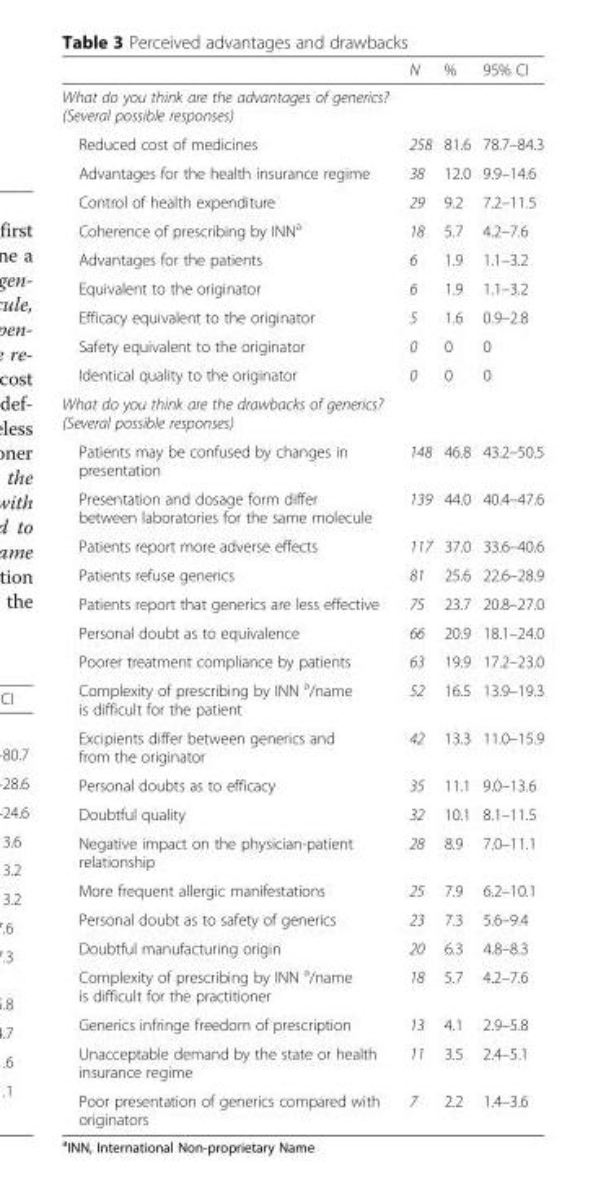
<table><thead><tr><td></td><td>N</td><td>%</td><td>95% CI</td></tr></thead><tbody><tr><td colspan="4">What do you think are the advantages of generics? (Several possible responses)</td></tr><tr><td>Reduced cost of medicines</td><td>258</td><td>81.6</td><td>78.7–84.3</td></tr><tr><td>Advantages for the health insurance regime</td><td>38</td><td>12.0</td><td>9.9–14.6</td></tr><tr><td>Control of health expenditure</td><td>29</td><td>9.2</td><td>7.2–11.5</td></tr><tr><td>Coherence of prescribing by INN<sup>a</sup></td><td>18</td><td>5.7</td><td>4.2–7.6</td></tr><tr><td>Advantages for the patients</td><td>6</td><td>1.9</td><td>1.1–3.2</td></tr><tr><td>Equivalent to the originator</td><td>6</td><td>1.9</td><td>1.1–3.2</td></tr><tr><td>Efficacy equivalent to the originator</td><td>5</td><td>1.6</td><td>0.9–2.8</td></tr><tr><td>Safety equivalent to the originator</td><td>0</td><td>0</td><td>0</td></tr><tr><td>Identical quality to the originator</td><td>0</td><td>0</td><td>0</td></tr><tr><td colspan="4">What do you think are the drawbacks of generics? (Several possible responses)</td></tr><tr><td>Patients may be confused by changes in presentation</td><td>148</td><td>46.8</td><td>43.2–50.5</td></tr><tr><td>Presentation and dosage form differ between laboratories for the same molecule</td><td>139</td><td>44.0</td><td>40.4–47.6</td></tr><tr><td>Patients report more adverse effects</td><td>117</td><td>37.0</td><td>33.6–40.6</td></tr><tr><td>Patients refuse generics</td><td>81</td><td>25.6</td><td>22.6–28.9</td></tr><tr><td>Patients report that generics are less effective</td><td>75</td><td>23.7</td><td>20.8–27.0</td></tr><tr><td>Personal doubt as to equivalence</td><td>66</td><td>20.9</td><td>18.1–24.0</td></tr><tr><td>Poorer treatment compliance by patients</td><td>63</td><td>19.9</td><td>17.2–23.0</td></tr><tr><td>Complexity of prescribing by INN <sup>a</sup>/name is difficult for the patient</td><td>52</td><td>16.5</td><td>13.9–19.3</td></tr><tr><td>Excipients differ between generics and from the originator</td><td>42</td><td>13.3</td><td>11.0–15.9</td></tr><tr><td>Personal doubts as to efficacy</td><td>35</td><td>11.1</td><td>9.0–13.6</td></tr><tr><td>Doubtful quality</td><td>32</td><td>10.1</td><td>8.1–11.5</td></tr><tr><td>Negative impact on the physician-patient relationship</td><td>28</td><td>8.9</td><td>7.0–11.1</td></tr><tr><td>More frequent allergic manifestations</td><td>25</td><td>7.9</td><td>6.2–10.1</td></tr><tr><td>Personal doubt as to safety of generics</td><td>23</td><td>7.3</td><td>5.6–9.4</td></tr><tr><td>Doubtful manufacturing origin</td><td>20</td><td>6.3</td><td>4.8–8.3</td></tr><tr><td>Complexity of prescribing by INN <sup>a</sup>/name is difficult for the practitioner</td><td>18</td><td>5.7</td><td>4.2–7.6</td></tr><tr><td>Generics infringe freedom of prescription</td><td>13</td><td>4.1</td><td>2.9–5.8</td></tr><tr><td>Unacceptable demand by the state or health insurance regime</td><td>11</td><td>3.5</td><td>2.4–5.1</td></tr><tr><td>Poor presentation of generics compared with originators</td><td>7</td><td>2.2</td><td>1.4–3.6</td></tr></tbody></table>